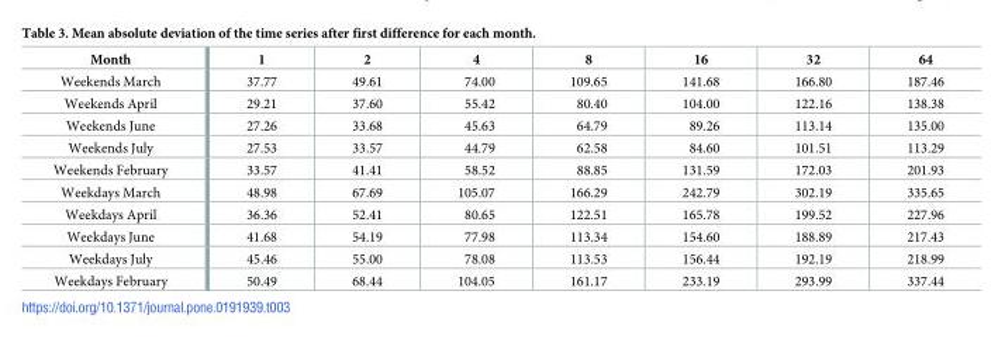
<table><thead><tr><td>Month</td><td>1</td><td>2</td><td>4</td><td>8</td><td>16</td><td>32</td><td>64</td></tr></thead><tbody><tr><td>Weekends March</td><td>37.77</td><td>49.61</td><td>74.00</td><td>109.65</td><td>141.68</td><td>166.80</td><td>187.46</td></tr><tr><td>Weekends April</td><td>29.21</td><td>37.60</td><td>55.42</td><td>80.40</td><td>104.00</td><td>122.16</td><td>138.38</td></tr><tr><td>Weekends June</td><td>27.26</td><td>33.68</td><td>45.63</td><td>64.79</td><td>89.26</td><td>113.14</td><td>135.00</td></tr><tr><td>Weekends July</td><td>27.53</td><td>33.57</td><td>44.79</td><td>62.58</td><td>84.60</td><td>101.51</td><td>113.29</td></tr><tr><td>Weekends February</td><td>33.57</td><td>41.41</td><td>58.52</td><td>88.85</td><td>131.59</td><td>172.03</td><td>201.93</td></tr><tr><td>Weekdays March</td><td>48.98</td><td>67.69</td><td>105.07</td><td>166.29</td><td>242.79</td><td>302.19</td><td>335.65</td></tr><tr><td>Weekdays April</td><td>36.36</td><td>52.41</td><td>80.65</td><td>122.51</td><td>165.78</td><td>199.52</td><td>227.96</td></tr><tr><td>Weekdays June</td><td>41.68</td><td>54.19</td><td>77.98</td><td>113.34</td><td>154.60</td><td>188.89</td><td>217.43</td></tr><tr><td>Weekdays July</td><td>45.46</td><td>55.00</td><td>78.08</td><td>113.53</td><td>156.44</td><td>192.19</td><td>218.99</td></tr><tr><td>Weekdays February</td><td>50.49</td><td>68.44</td><td>104.05</td><td>161.17</td><td>233.19</td><td>293.99</td><td>337.44</td></tr></tbody></table>